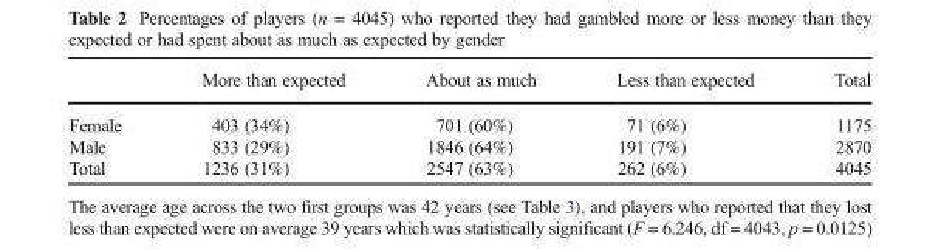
<table><thead><tr><td></td><td>More than expected</td><td>About as much</td><td>Less than expected</td><td>Total</td></tr></thead><tbody><tr><td>Female</td><td>403 (34%)</td><td>701 (60%)</td><td>71 (6%)</td><td>1175</td></tr><tr><td>Male</td><td>833 (29%)</td><td>1846 (64%)</td><td>191 (7%)</td><td>2870</td></tr><tr><td>Total</td><td>1236 (31%)</td><td>2547 (63%)</td><td>262 (6%)</td><td>4045</td></tr></tbody></table>